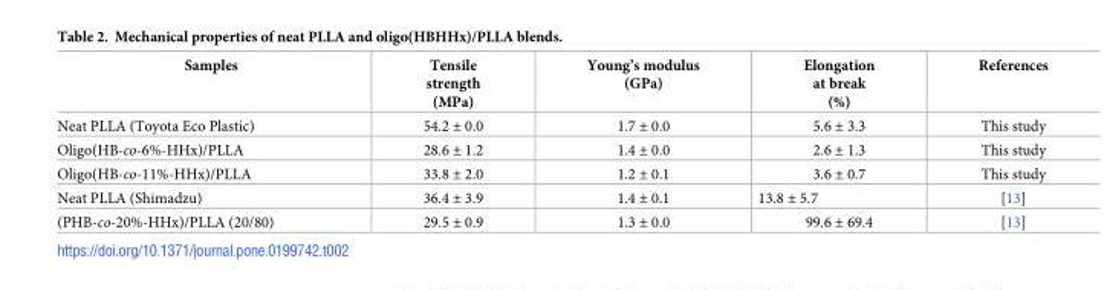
<table><thead><tr><td>Samples</td><td>Tensile strength (MPa)</td><td>Young’s modulus (GPa)</td><td>Elongation at break (%)</td><td>References</td></tr></thead><tbody><tr><td>Neat PLLA (Toyota Eco Plastic)</td><td>54.2 ± 0.0</td><td>1.7 ± 0.0</td><td>5.6 ± 3.3</td><td>This study</td></tr><tr><td>Oligo(HB-co-6%-HHx)/PLLA</td><td>28.6 ± 1.2</td><td>1.4 ± 0.0</td><td>2.6 ± 1.3</td><td>This study</td></tr><tr><td>Oligo(HB-co-11%-HHx)/PLLA</td><td>33.8 ± 2.0</td><td>1.2 ± 0.1</td><td>3.6 ± 0.7</td><td>This study</td></tr><tr><td>Neat PLLA (Shimadzu)</td><td>36.4 ± 3.9</td><td>1.4 ± 0.1</td><td>13.8 ± 5.7</td><td>[13]</td></tr><tr><td>(PHB-co-20%-HHx)/PLLA (20/80)</td><td>29.5 ± 0.9</td><td>1.3 ± 0.0</td><td>99.6 ± 69.4</td><td>[13]</td></tr></tbody></table>